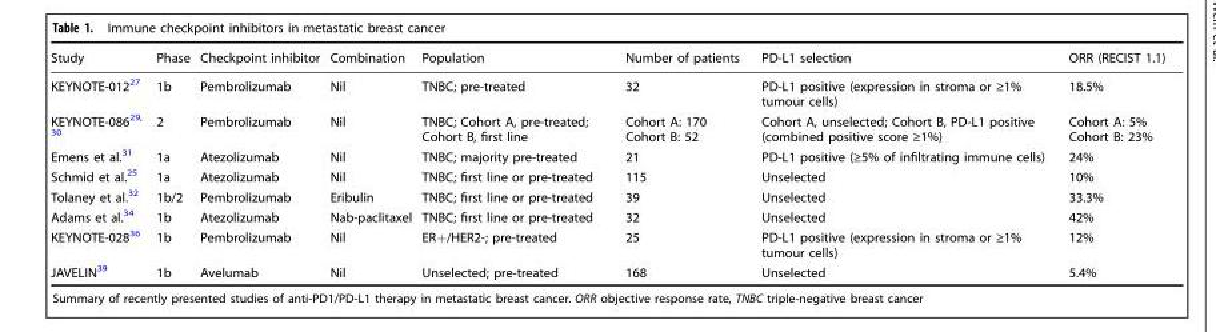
<table><thead><tr><td>Study</td><td>Phase</td><td>Checkpoint inhibitor</td><td>Combination</td><td>Population</td><td>Number of patients</td><td>PD-L1 selection</td><td>ORR (RECIST 1.1)</td></tr></thead><tbody><tr><td>KEYNOTE-012<sup>27</sup></td><td>1b</td><td>Pembrolizumab</td><td>Nil</td><td>TNBC; pre-treated</td><td>32</td><td>PD-L1 positive (expression in stroma or ≥1% tumour cells)</td><td>18.5%</td></tr><tr><td>KEYNOTE-086<sup>29, 30</sup></td><td>2</td><td>Pembrolizumab</td><td>Nil</td><td>TNBC; Cohort A, pre-treated; Cohort B, first line</td><td>Cohort A: 170 Cohort B: 52</td><td>Cohort A, unselected; Cohort B, PD-L1 positive (combined positive score ≥1%)</td><td>Cohort A: 5% Cohort B: 23%</td></tr><tr><td>Emens et al.<sup>31</sup></td><td>1a</td><td>Atezolizumab</td><td>Nil</td><td>TNBC; majority pre-treated</td><td>21</td><td>PD-L1 positive (≥5% of infiltrating immune cells)</td><td>24%</td></tr><tr><td>Schmid et al.<sup>25</sup></td><td>1a</td><td>Atezolizumab</td><td>Nil</td><td>TNBC; first line or pre-treated</td><td>115</td><td>Unselected</td><td>10%</td></tr><tr><td>Tolaney et al.<sup>32</sup></td><td>1b/2</td><td>Pembrolizumab</td><td>Eribulin</td><td>TNBC; first line or pre-treated</td><td>39</td><td>Unselected</td><td>33.3%</td></tr><tr><td>Adams et al.<sup>34</sup></td><td>1b</td><td>Atezolizumab</td><td>Nab-paclitaxel</td><td>TNBC; first line or pre-treated</td><td>32</td><td>Unselected</td><td>42%</td></tr><tr><td>KEYNOTE-028<sup>36</sup></td><td>1b</td><td>Pembrolizumab</td><td>Nil</td><td>ER+/HER2-; pre-treated</td><td>25</td><td>PD-L1 positive (expression in stroma or ≥1% tumour cells)</td><td>12%</td></tr><tr><td>JAVELIN<sup>39</sup></td><td>1b</td><td>Avelumab</td><td>Nil</td><td>Unselected; pre-treated</td><td>168</td><td>Unselected</td><td>5.4%</td></tr></tbody></table>